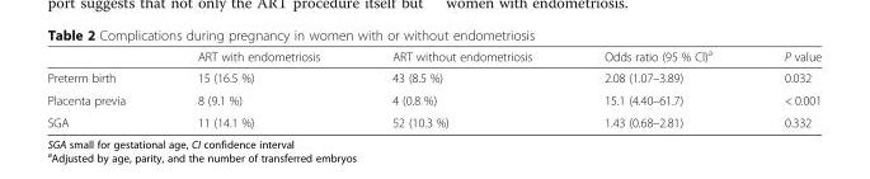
<table><thead><tr><td></td><td>ART with endometriosis</td><td>ART without endometriosis</td><td>Odds ratio (95 % Cl)<sup>a</sup></td><td>P value</td></tr></thead><tbody><tr><td>Preterm birth</td><td>15 (16.5 %)</td><td>43 (8.5 %)</td><td>2.08 (1.07–3.89)</td><td>0.032</td></tr><tr><td>Placenta previa</td><td>8 (9.1 %)</td><td>4 (0.8 %)</td><td>15.1 (4.40–61.7)</td><td>&lt; 0.001</td></tr><tr><td>SGA</td><td>11 (14.1 %)</td><td>52 (10.3 %)</td><td>1.43 (0.68–2.81)</td><td>0.332</td></tr></tbody></table>